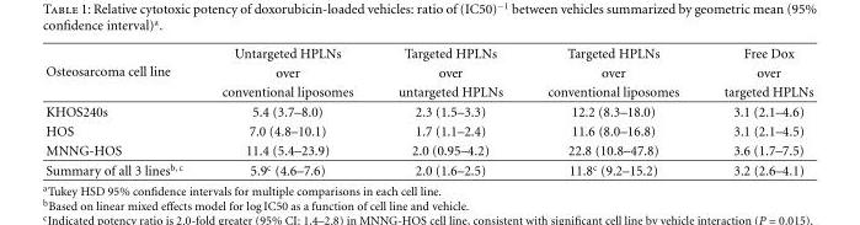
<table><thead><tr><td rowspan="3">Osteosarcoma cell line</td><td rowspan="3">Untargeted HPLNs over conventional liposomes</td><td rowspan="3">Targeted HPLNs over untargeted HPLNs</td><td rowspan="3">Targeted HPLNs over conventional liposomes</td><td rowspan="3">Free Dox over targeted HPLNs</td></tr><tr></tr><tr></tr></thead><tbody><tr><td>KHOS240s</td><td>5.4 (3.7–8.0)</td><td>2.3 (1.5–3.3)</td><td>12.2 (8.3–18.0)</td><td>3.1 (2.1–4.6)</td></tr><tr><td>HOS</td><td>7.0 (4.8–10.1)</td><td>1.7 (1.1–2.4)</td><td>11.6 (8.0–16.8)</td><td>3.1 (2.1–4.5)</td></tr><tr><td>MNNG-HOS</td><td>11.4 (5.4–23.9)</td><td>2.0 (0.95–4.2)</td><td>22.8 (10.8–47.8)</td><td>3.6 (1.7–7.5)</td></tr><tr><td>Summary of all 3 lines<sup>b,c</sup></td><td>5.9<sup>c</sup> (4.6–7.6)</td><td>2.0 (1.6–2.5)</td><td>11.8<sup>c</sup> (9.2–15.2)</td><td>3.2 (2.6–4.1)</td></tr></tbody></table>